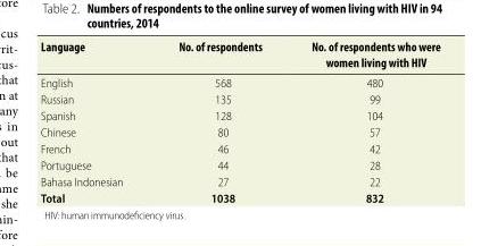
<table><thead><tr><td>Language</td><td>No. of respondents</td><td>No. of respondents who were women living with HIV</td></tr></thead><tbody><tr><td>English</td><td>568</td><td>480</td></tr><tr><td>Russian</td><td>135</td><td>99</td></tr><tr><td>Spanish</td><td>128</td><td>104</td></tr><tr><td>Chinese</td><td>80</td><td>57</td></tr><tr><td>French</td><td>46</td><td>42</td></tr><tr><td>Portuguese</td><td>44</td><td>28</td></tr><tr><td>Bahasa Indonesian</td><td>27</td><td>22</td></tr><tr><td>Total</td><td>1038</td><td>832</td></tr></tbody></table>